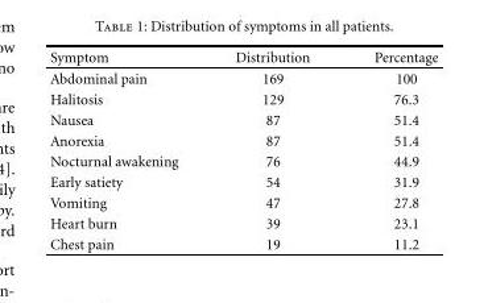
<table><thead><tr><td>Symptom</td><td>Distribution</td><td>Percentage</td></tr></thead><tbody><tr><td>Abdominal pain</td><td>169</td><td>100</td></tr><tr><td>Halitosis</td><td>129</td><td>76.3</td></tr><tr><td>Nausea</td><td>87</td><td>51.4</td></tr><tr><td>Anorexia</td><td>87</td><td>51.4</td></tr><tr><td>Nocturnal awakening</td><td>76</td><td>44.9</td></tr><tr><td>Early satiety</td><td>54</td><td>31.9</td></tr><tr><td>Vomiting</td><td>47</td><td>27.8</td></tr><tr><td>Heart burn</td><td>39</td><td>23.1</td></tr><tr><td>Chest pain</td><td>19</td><td>11.2</td></tr></tbody></table>